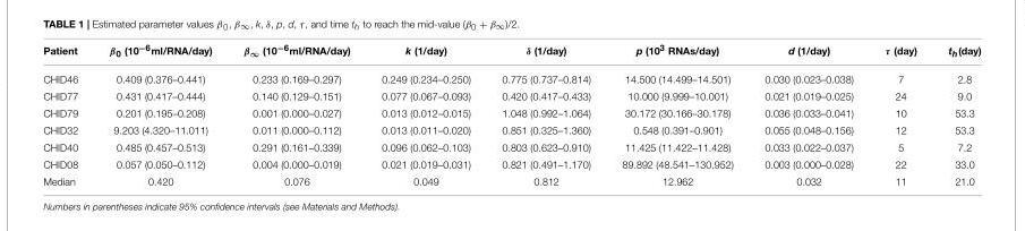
<table><thead><tr><td>Patient</td><td>β<sub>0</sub> (10<sup>−6</sup>ml/RNA/day)</td><td>β<sub>∞</sub> (10<sup>−6</sup>ml/RNA/day)</td><td>k (1/day)</td><td>δ (1/day)</td><td>p (10<sup>3</sup> RNAs/day)</td><td>d (1/day)</td><td>τ (day)</td><td>th(day)</td></tr></thead><tbody><tr><td>CHID46</td><td>0.409 (0.376–0.441)</td><td>0.233 (0.169–0.297)</td><td>0.249 (0.234–0.250)</td><td>0.775 (0.737–0.814)</td><td>14.500 (14.499–14.501)</td><td>0.030 (0.023–0.038)</td><td>7</td><td>2.8</td></tr><tr><td>CHID77</td><td>0.431 (0.417–0.444)</td><td>0.140 (0.129–0.151)</td><td>0.077 (0.067–0.093)</td><td>0.420 (0.417–0.433)</td><td>10.000 (9.999–10.001)</td><td>0.021 (0.019–0.025)</td><td>24</td><td>9.0</td></tr><tr><td>CHID79</td><td>0.201 (0.195–0.208)</td><td>0.001 (0.000–0.027)</td><td>0.013 (0.012–0.015)</td><td>1.048 (0.992–1.064)</td><td>30.172 (30.166–30.178)</td><td>0.036 (0.033–0.041)</td><td>10</td><td>53.3</td></tr><tr><td>CHID32</td><td>9.203 (4.320–11.011)</td><td>0.011 (0.000–0.112)</td><td>0.013 (0.011–0.020)</td><td>0.851 (0.325–1.360)</td><td>0.548 (0.391–0.901)</td><td>0.055 (0.048–0.156)</td><td>12</td><td>53.3</td></tr><tr><td>CHID40</td><td>0.485 (0.457–0.513)</td><td>0.291 (0.161–0.339)</td><td>0.096 (0.062–0.103)</td><td>0.803 (0.623–0.910)</td><td>11.425 (11.422–11.428)</td><td>0.033 (0.022–0.037)</td><td>5</td><td>7.2</td></tr><tr><td>CHID08</td><td>0.057 (0.050–0.112)</td><td>0.004 (0.000–0.019)</td><td>0.021 (0.019–0.031)</td><td>0.821 (0.491–1.170)</td><td>89.892 (48.541–130.952)</td><td>0.003 (0.000–0.028)</td><td>22</td><td>33.0</td></tr><tr><td>Median</td><td>0.420</td><td>0.076</td><td>0.049</td><td>0.812</td><td>12.962</td><td>0.032</td><td>11</td><td>21.0</td></tr></tbody></table>